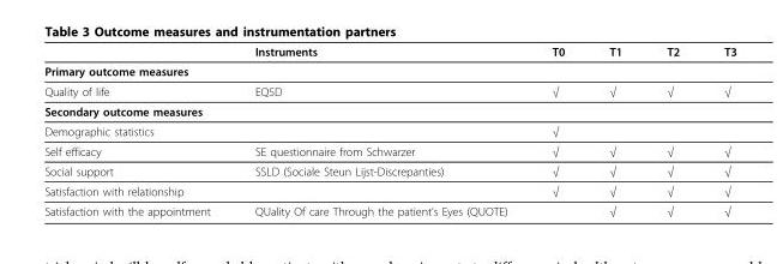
<table><thead><tr><td></td><td>Instruments</td><td>T0</td><td>T1</td><td>T2</td><td>T3</td></tr></thead><tbody><tr><td colspan="6">Primary outcome measures</td></tr><tr><td>Quality of life</td><td>EQ5D</td><td>√</td><td>√</td><td>√</td><td>√</td></tr><tr><td colspan="6">Secondary outcome measures</td></tr><tr><td>Demographic statistics</td><td></td><td>√</td><td></td><td></td><td></td></tr><tr><td>Self efficacy</td><td>SE questionnaire from Schwarzer</td><td>√</td><td>√</td><td>√</td><td>√</td></tr><tr><td>Social support</td><td>SSLD (Sociale Steun Lijst-Discrepanties)</td><td>√</td><td>√</td><td>√</td><td>√</td></tr><tr><td>Satisfaction with relationship</td><td></td><td>√</td><td>√</td><td>√</td><td>√</td></tr><tr><td>Satisfaction with the appointment</td><td>QUality Of care Through the patient’s Eyes (QUOTE)</td><td></td><td>√</td><td>√</td><td>√</td></tr></tbody></table>